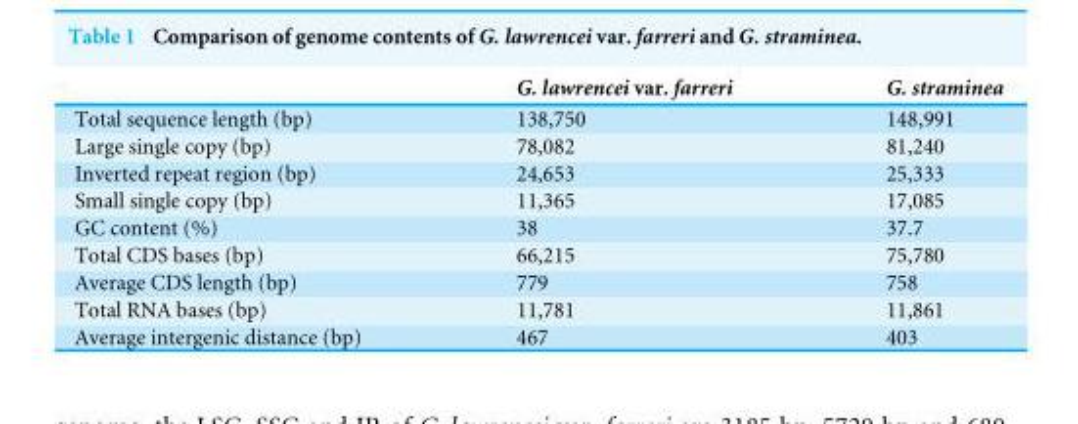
<table><thead><tr><td></td><td>G. lawrencei var. farreri</td><td>G. straminea</td></tr></thead><tbody><tr><td>Total sequence length (bp)</td><td>138,750</td><td>148,991</td></tr><tr><td>Large single copy (bp)</td><td>78,082</td><td>81,240</td></tr><tr><td>Inverted repeat region (bp)</td><td>24,653</td><td>25,333</td></tr><tr><td>Small single copy (bp)</td><td>11,365</td><td>17,085</td></tr><tr><td>GC content (%)</td><td>38</td><td>37.7</td></tr><tr><td>Total CDS bases (bp)</td><td>66,215</td><td>75,780</td></tr><tr><td>Average CDS length (bp)</td><td>779</td><td>758</td></tr><tr><td>Total RNA bases (bp)</td><td>11,781</td><td>11,861</td></tr><tr><td>Average intergenic distance (bp)</td><td>467</td><td>403</td></tr></tbody></table>